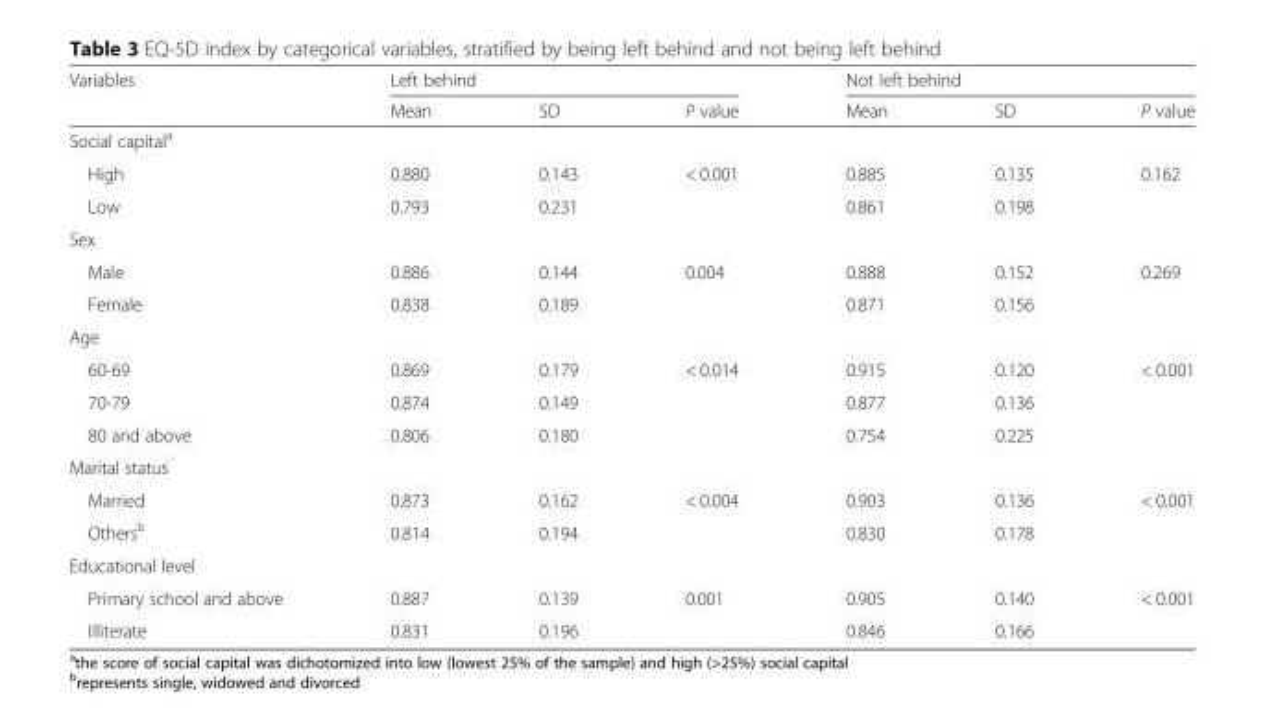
<table><thead><tr><td rowspan="2">Variables</td><td colspan="3">Left behind</td><td colspan="3">Not left behind</td></tr><tr><td>Mean</td><td>SD</td><td>P value</td><td>Mean</td><td>SD</td><td>P value</td></tr></thead><tbody><tr><td colspan="7">Social capital<sup>a</sup></td></tr><tr><td>High</td><td>0.880</td><td>0.143</td><td>&lt; 0.001</td><td>0.885</td><td>0.135</td><td>0.162</td></tr><tr><td>Low</td><td>0.793</td><td>0.231</td><td></td><td>0.861</td><td>0.198</td><td></td></tr><tr><td colspan="7">Sex</td></tr><tr><td>Male</td><td>0.886</td><td>0.144</td><td>0.004</td><td>0.888</td><td>0.152</td><td>0.269</td></tr><tr><td>Female</td><td>0.838</td><td>0.189</td><td></td><td>0.871</td><td>0.156</td><td></td></tr><tr><td colspan="7">Age</td></tr><tr><td>60-69</td><td>0.869</td><td>0.179</td><td>&lt; 0.014</td><td>0.915</td><td>0.120</td><td>&lt; 0.001</td></tr><tr><td>70-79</td><td>0.874</td><td>0.149</td><td></td><td>0.877</td><td>0.136</td><td></td></tr><tr><td>80 and above</td><td>0.806</td><td>0.180</td><td></td><td>0.754</td><td>0.225</td><td></td></tr><tr><td colspan="7">Marital status</td></tr><tr><td>Married</td><td>0.873</td><td>0.162</td><td>&lt; 0.004</td><td>0.903</td><td>0.136</td><td>&lt; 0.001</td></tr><tr><td>Others<sup>b</sup></td><td>0.814</td><td>0.194</td><td></td><td>0.830</td><td>0.178</td><td></td></tr><tr><td colspan="7">Educational level</td></tr><tr><td>Primary school and above</td><td>0.887</td><td>0.139</td><td>0.001</td><td>0.905</td><td>0.140</td><td>&lt; 0.001</td></tr><tr><td>Illiterate</td><td>0.831</td><td>0.196</td><td></td><td>0.846</td><td>0.166</td><td></td></tr></tbody></table>